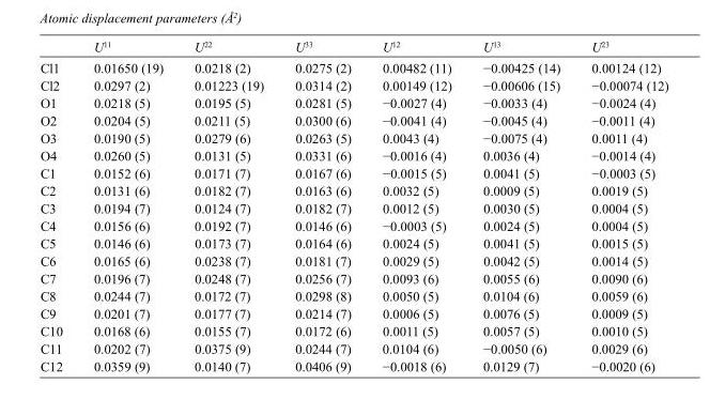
<table><thead><tr><td></td><td>U<sup>11</sup></td><td>U<sup>22</sup></td><td>U<sup>33</sup></td><td>U<sup>12</sup></td><td>U<sup>13</sup></td><td>U<sup>23</sup></td></tr></thead><tbody><tr><td>Cl1</td><td>0.01650 (19)</td><td>0.0218 (2)</td><td>0.0275 (2)</td><td>0.00482 (11)</td><td>−0.00425 (14)</td><td>0.00124 (12)</td></tr><tr><td>Cl2</td><td>0.0297 (2)</td><td>0.01223 (19)</td><td>0.0314 (2)</td><td>0.00149 (12)</td><td>−0.00606 (15)</td><td>−0.00074 (12)</td></tr><tr><td>O1</td><td>0.0218 (5)</td><td>0.0195 (5)</td><td>0.0281 (5)</td><td>−0.0027 (4)</td><td>−0.0033 (4)</td><td>−0.0024 (4)</td></tr><tr><td>O2</td><td>0.0204 (5)</td><td>0.0211 (5)</td><td>0.0300 (6)</td><td>−0.0041 (4)</td><td>−0.0045 (4)</td><td>−0.0011 (4)</td></tr><tr><td>O3</td><td>0.0190 (5)</td><td>0.0279 (6)</td><td>0.0263 (5)</td><td>0.0043 (4)</td><td>−0.0075 (4)</td><td>0.0011 (4)</td></tr><tr><td>O4</td><td>0.0260 (5)</td><td>0.0131 (5)</td><td>0.0331 (6)</td><td>−0.0016 (4)</td><td>0.0036 (4)</td><td>−0.0014 (4)</td></tr><tr><td>C1</td><td>0.0152 (6)</td><td>0.0171 (7)</td><td>0.0167 (6)</td><td>−0.0015 (5)</td><td>0.0041 (5)</td><td>−0.0003 (5)</td></tr><tr><td>C2</td><td>0.0131 (6)</td><td>0.0182 (7)</td><td>0.0163 (6)</td><td>0.0032 (5)</td><td>0.0009 (5)</td><td>0.0019 (5)</td></tr><tr><td>C3</td><td>0.0194 (7)</td><td>0.0124 (7)</td><td>0.0182 (7)</td><td>0.0012 (5)</td><td>0.0030 (5)</td><td>0.0004 (5)</td></tr><tr><td>C4</td><td>0.0156 (6)</td><td>0.0192 (7)</td><td>0.0146 (6)</td><td>−0.0003 (5)</td><td>0.0024 (5)</td><td>0.0004 (5)</td></tr><tr><td>C5</td><td>0.0146 (6)</td><td>0.0173 (7)</td><td>0.0164 (6)</td><td>0.0024 (5)</td><td>0.0041 (5)</td><td>0.0015 (5)</td></tr><tr><td>C6</td><td>0.0165 (6)</td><td>0.0238 (7)</td><td>0.0181 (7)</td><td>0.0029 (5)</td><td>0.0042 (5)</td><td>0.0014 (5)</td></tr><tr><td>C7</td><td>0.0196 (7)</td><td>0.0248 (7)</td><td>0.0256 (7)</td><td>0.0093 (6)</td><td>0.0055 (6)</td><td>0.0090 (6)</td></tr><tr><td>C8</td><td>0.0244 (7)</td><td>0.0172 (7)</td><td>0.0298 (8)</td><td>0.0050 (5)</td><td>0.0104 (6)</td><td>0.0059 (6)</td></tr><tr><td>C9</td><td>0.0201 (7)</td><td>0.0177 (7)</td><td>0.0214 (7)</td><td>0.0006 (5)</td><td>0.0076 (5)</td><td>0.0009 (5)</td></tr><tr><td>C10</td><td>0.0168 (6)</td><td>0.0155 (7)</td><td>0.0172 (6)</td><td>0.0011 (5)</td><td>0.0057 (5)</td><td>0.0010 (5)</td></tr><tr><td>C11</td><td>0.0202 (7)</td><td>0.0375 (9)</td><td>0.0244 (7)</td><td>0.0104 (6)</td><td>−0.0050 (6)</td><td>0.0029 (6)</td></tr><tr><td>C12</td><td>0.0359 (9)</td><td>0.0140 (7)</td><td>0.0406 (9)</td><td>−0.0018 (6)</td><td>0.0129 (7)</td><td>−0.0020 (6)</td></tr></tbody></table>